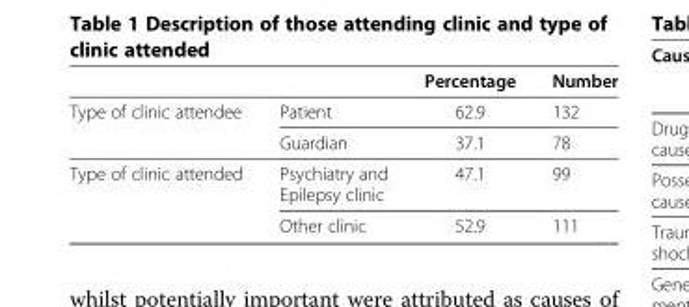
<table><thead><tr><td></td><td></td><td>Percentage</td><td>Number</td></tr></thead><tbody><tr><td rowspan="2">Type of clinic attendee</td><td>Patient</td><td>62.9</td><td>132</td></tr><tr><td>Guardian</td><td>37.1</td><td>78</td></tr><tr><td rowspan="2">Type of clinic attended</td><td>Psychiatry and Epilepsy clinic</td><td>47.1</td><td>99</td></tr><tr><td>Other clinic</td><td>52.9</td><td>111</td></tr></tbody></table>